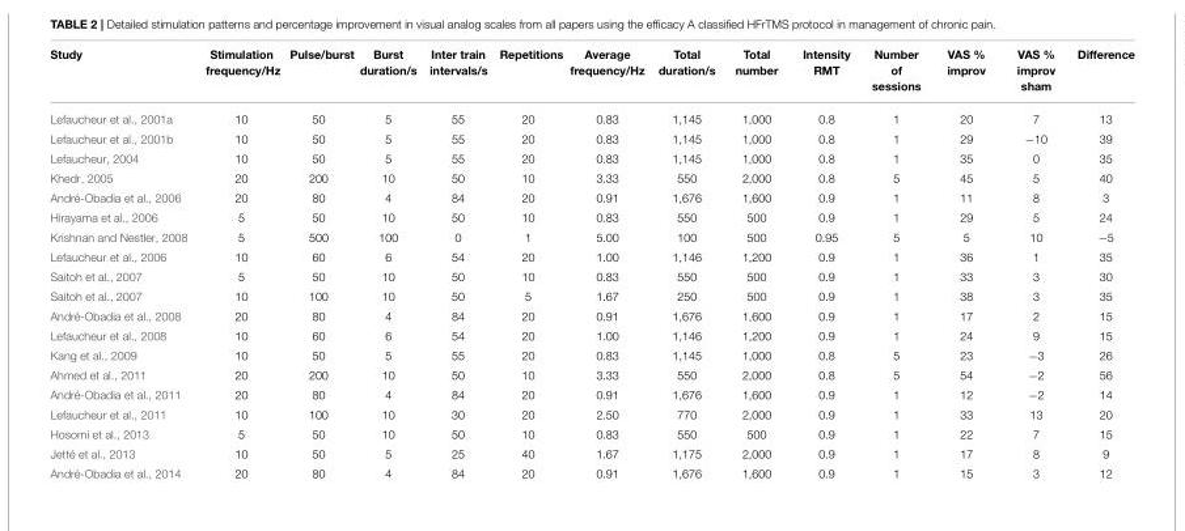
<table><thead><tr><td>Study</td><td>Stimulation frequency/Hz</td><td>Pulse/burst</td><td>Burst duration/s</td><td>Inter train intervals/s</td><td>Repetitions</td><td>Average frequency/Hz</td><td>Total duration/s</td><td>Total number</td><td>Intensity RMT</td><td>Number of sessions</td><td>VAS % improv</td><td>VAS % improv sham</td><td>Difference</td></tr></thead><tbody><tr><td>Lefaucheur et al., 2001a</td><td>10</td><td>50</td><td>5</td><td>55</td><td>20</td><td>0.83</td><td>1,145</td><td>1,000</td><td>0.8</td><td>1</td><td>20</td><td>7</td><td>13</td></tr><tr><td>Lefaucheur et al., 2001b</td><td>10</td><td>50</td><td>5</td><td>55</td><td>20</td><td>0.83</td><td>1,145</td><td>1,000</td><td>0.8</td><td>1</td><td>29</td><td>−10</td><td>39</td></tr><tr><td>Lefaucheur, 2004</td><td>10</td><td>50</td><td>5</td><td>55</td><td>20</td><td>0.83</td><td>1,145</td><td>1,000</td><td>0.8</td><td>1</td><td>35</td><td>0</td><td>35</td></tr><tr><td>Khedr, 2005</td><td>20</td><td>200</td><td>10</td><td>50</td><td>10</td><td>3.33</td><td>550</td><td>2,000</td><td>0.8</td><td>5</td><td>45</td><td>5</td><td>40</td></tr><tr><td>André-Obadia et al., 2006</td><td>20</td><td>80</td><td>4</td><td>84</td><td>20</td><td>0.91</td><td>1,676</td><td>1,600</td><td>0.9</td><td>1</td><td>11</td><td>8</td><td>3</td></tr><tr><td>Hirayama et al., 2006</td><td>5</td><td>50</td><td>10</td><td>50</td><td>10</td><td>0.83</td><td>550</td><td>500</td><td>0.9</td><td>1</td><td>29</td><td>5</td><td>24</td></tr><tr><td>Krishnan and Nestler, 2008</td><td>5</td><td>500</td><td>100</td><td>0</td><td>1</td><td>5.00</td><td>100</td><td>500</td><td>0.95</td><td>5</td><td>5</td><td>10</td><td>−5</td></tr><tr><td>Lefaucheur et al., 2006</td><td>10</td><td>60</td><td>6</td><td>54</td><td>20</td><td>1.00</td><td>1,146</td><td>1,200</td><td>0.9</td><td>1</td><td>36</td><td>1</td><td>35</td></tr><tr><td>Saitoh et al., 2007</td><td>5</td><td>50</td><td>10</td><td>50</td><td>10</td><td>0.83</td><td>550</td><td>500</td><td>0.9</td><td>1</td><td>33</td><td>3</td><td>30</td></tr><tr><td>Saitoh et al., 2007</td><td>10</td><td>100</td><td>10</td><td>50</td><td>5</td><td>1.67</td><td>250</td><td>500</td><td>0.9</td><td>1</td><td>38</td><td>3</td><td>35</td></tr><tr><td>André-Obadia et al., 2008</td><td>20</td><td>80</td><td>4</td><td>84</td><td>20</td><td>0.91</td><td>1,676</td><td>1,600</td><td>0.9</td><td>1</td><td>17</td><td>2</td><td>15</td></tr><tr><td>Lefaucheur et al., 2008</td><td>10</td><td>60</td><td>6</td><td>54</td><td>20</td><td>1.00</td><td>1,146</td><td>1,200</td><td>0.9</td><td>1</td><td>24</td><td>9</td><td>15</td></tr><tr><td>Kang et al., 2009</td><td>10</td><td>50</td><td>5</td><td>55</td><td>20</td><td>0.83</td><td>1,145</td><td>1,000</td><td>0.8</td><td>5</td><td>23</td><td>−3</td><td>26</td></tr><tr><td>Ahmed et al., 2011</td><td>20</td><td>200</td><td>10</td><td>50</td><td>10</td><td>3.33</td><td>550</td><td>2,000</td><td>0.8</td><td>5</td><td>54</td><td>−2</td><td>56</td></tr><tr><td>André-Obadia et al., 2011</td><td>20</td><td>80</td><td>4</td><td>84</td><td>20</td><td>0.91</td><td>1,676</td><td>1,600</td><td>0.9</td><td>1</td><td>12</td><td>−2</td><td>14</td></tr><tr><td>Lefaucheur et al., 2011</td><td>10</td><td>100</td><td>10</td><td>30</td><td>20</td><td>2.50</td><td>770</td><td>2,000</td><td>0.9</td><td>1</td><td>33</td><td>13</td><td>20</td></tr><tr><td>Hosomi et al., 2013</td><td>5</td><td>50</td><td>10</td><td>50</td><td>10</td><td>0.83</td><td>550</td><td>500</td><td>0.9</td><td>1</td><td>22</td><td>7</td><td>15</td></tr><tr><td>Jetté et al., 2013</td><td>10</td><td>50</td><td>5</td><td>25</td><td>40</td><td>1.67</td><td>1,175</td><td>2,000</td><td>0.9</td><td>1</td><td>17</td><td>8</td><td>9</td></tr><tr><td>André-Obadia et al., 2014</td><td>20</td><td>80</td><td>4</td><td>84</td><td>20</td><td>0.91</td><td>1,676</td><td>1,600</td><td>0.9</td><td>1</td><td>15</td><td>3</td><td>12</td></tr></tbody></table>